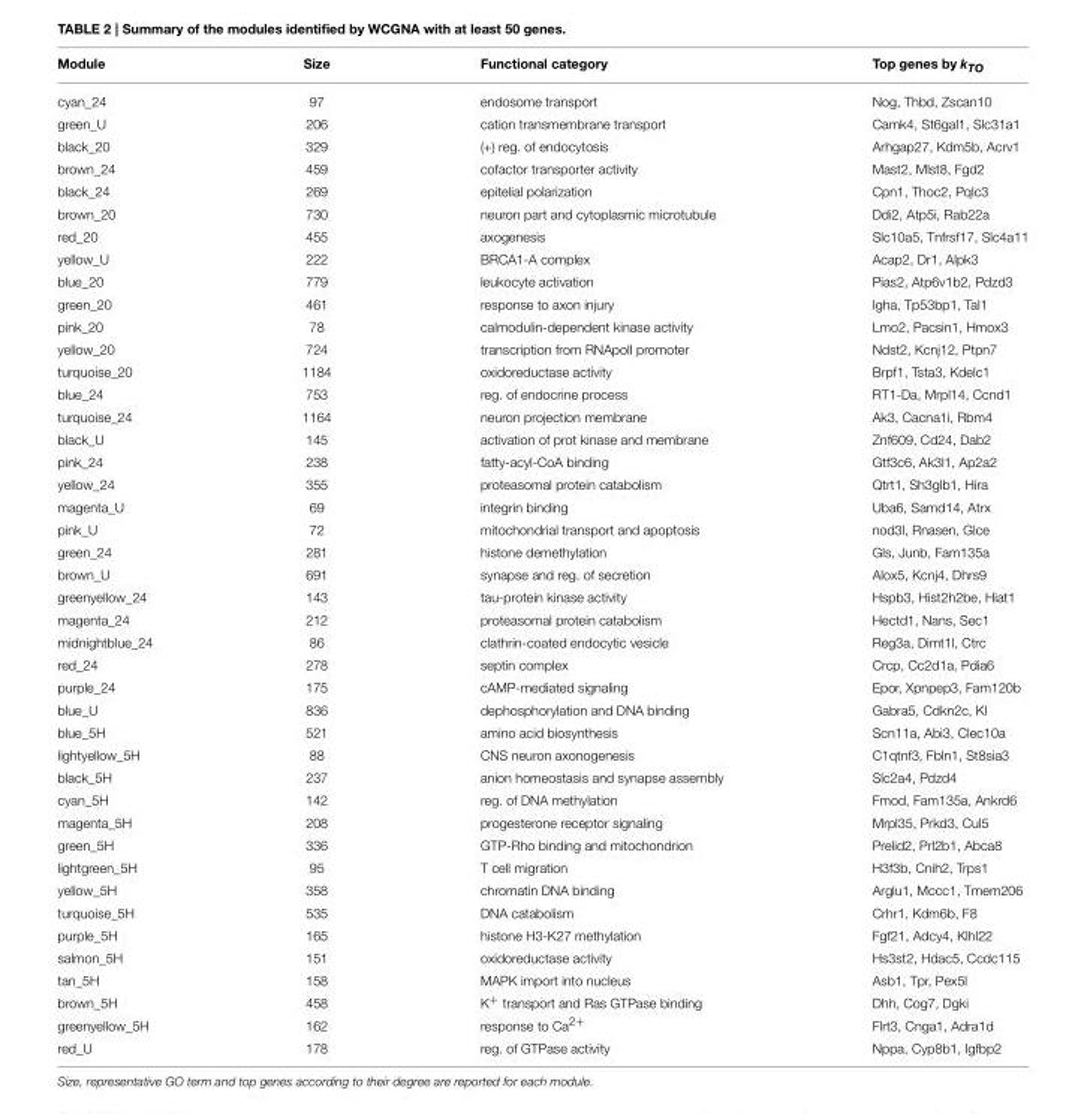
<table><thead><tr><td>Module</td><td>Size</td><td>Functional category</td><td>Top genes by k<sub>TO</sub></td></tr></thead><tbody><tr><td>cyan_24</td><td>97</td><td>endosome transport</td><td>Nog, Thbd, Zscan10</td></tr><tr><td>green_U</td><td>206</td><td>cation transmembrane transport</td><td>Camk4, St6gal1, Slc31a1</td></tr><tr><td>black_20</td><td>329</td><td>(+) reg. of endocytosis</td><td>Arhgap27, Kdm5b, Acrv1</td></tr><tr><td>brown_24</td><td>459</td><td>cofactor transporter activity</td><td>Mast2, Mlst8, Fgd2</td></tr><tr><td>black_24</td><td>269</td><td>epitelial polarization</td><td>Cpn1, Thoc2, Pqlc3</td></tr><tr><td>brown_20</td><td>730</td><td>neuron part and cytoplasmic microtubule</td><td>Ddi2, Atp5i, Rab22a</td></tr><tr><td>red_20</td><td>455</td><td>axogenesis</td><td>Slc10a5, Tnfrsf17, Slc4a11</td></tr><tr><td>yellow_U</td><td>222</td><td>BRCA1-A complex</td><td>Acap2, Dr1, Alpk3</td></tr><tr><td>blue_20</td><td>779</td><td>leukocyte activation</td><td>Pias2, Atp6v1b2, Pdzd3</td></tr><tr><td>green_20</td><td>461</td><td>response to axon injury</td><td>Igha, Tp53bp1, Tal1</td></tr><tr><td>pink_20</td><td>78</td><td>calmodulin-dependent kinase activity</td><td>Lmo2, Pacsin1, Hmox3</td></tr><tr><td>yellow_20</td><td>724</td><td>transcription from RNApolI promoter</td><td>Ndst2, Kcnj12, Ptpn7</td></tr><tr><td>turquoise_20</td><td>1184</td><td>oxidoreductase activity</td><td>Brpf1, Tsta3, Kdelc1</td></tr><tr><td>blue_24</td><td>753</td><td>reg. of endocrine process</td><td>RT1-Da, Mrpl14, Ccnd1</td></tr><tr><td>turquoise_24</td><td>1164</td><td>neuron projection membrane</td><td>Ak3, Cacna1i, Rbm4</td></tr><tr><td>black_U</td><td>145</td><td>activation of prot kinase and membrane</td><td>Znf609, Cd24, Dab2</td></tr><tr><td>pink_24</td><td>238</td><td>fatty-acyl-CoA binding</td><td>Gtf3c6, Ak3l1, Ap2a2</td></tr><tr><td>yellow_24</td><td>355</td><td>proteasomal protein catabolism</td><td>Qtrt1, Sh3glb1, Hira</td></tr><tr><td>magenta_U</td><td>69</td><td>integrin binding</td><td>Uba6, Samd14, Atrx</td></tr><tr><td>pink_U</td><td>72</td><td>mitochondrial transport and apoptosis</td><td>nod3l, Rnasen, Glce</td></tr><tr><td>green_24</td><td>281</td><td>histone demethylation</td><td>Gls, Junb, Fam135a</td></tr><tr><td>brown_U</td><td>691</td><td>synapse and reg. of secretion</td><td>Alox5, Kcnj4, Dhrs9</td></tr><tr><td>greenyellow_24</td><td>143</td><td>tau-protein kinase activity</td><td>Hspb3, Hist2h2be, Hiat1</td></tr><tr><td>magenta_24</td><td>212</td><td>proteasomal protein catabolism</td><td>Hectd1, Nans, Sec1</td></tr><tr><td>midnightblue_24</td><td>86</td><td>clathrin-coated endocytic vesicle</td><td>Reg3a, Dimt1l, Ctrc</td></tr><tr><td>red_24</td><td>278</td><td>septin complex</td><td>Crcp, Cc2d1a, Pdia6</td></tr><tr><td>purple_24</td><td>175</td><td>cAMP-mediated signaling</td><td>Epor, Xpnpep3, Fam120b</td></tr><tr><td>blue_U</td><td>836</td><td>dephosphorylation and DNA binding</td><td>Gabra5, Cdkn2c, Kl</td></tr><tr><td>blue_5H</td><td>521</td><td>amino acid biosynthesis</td><td>Scn11a, Abi3, Clec10a</td></tr><tr><td>lightyellow_5H</td><td>88</td><td>CNS neuron axonogenesis</td><td>C1qtnf3, Fbln1, St8sia3</td></tr><tr><td>black_5H</td><td>237</td><td>anion homeostasis and synapse assembly</td><td>Slc2a4, Pdzd4</td></tr><tr><td>cyan_5H</td><td>142</td><td>reg. of DNA methylation</td><td>Fmod, Fam135a, Ankrd6</td></tr><tr><td>magenta_5H</td><td>208</td><td>progesterone receptor signaling</td><td>Mrpl35, Prkd3, Cul5</td></tr><tr><td>green_5H</td><td>336</td><td>GTP-Rho binding and mitochondrion</td><td>Prelid2, Prl2b1, Abca8</td></tr><tr><td>lightgreen_5H</td><td>95</td><td>T cell migration</td><td>H3f3b, Cnih2, Trps1</td></tr><tr><td>yellow_5H</td><td>358</td><td>chromatin DNA binding</td><td>Arglu1, Mccc1, Tmem206</td></tr><tr><td>turquoise_5H</td><td>535</td><td>DNA catabolism</td><td>Crhr1, Kdm6b, F8</td></tr><tr><td>purple_5H</td><td>165</td><td>histone H3-K27 methylation</td><td>Fgf21, Adcy4, Klhl22</td></tr><tr><td>salmon_5H</td><td>151</td><td>oxidoreductase activity</td><td>Hs3st2, Hdac5, Ccdc115</td></tr><tr><td>tan_5H</td><td>158</td><td>MAPK import into nucleus</td><td>Asb1, Tpr, Pex5l</td></tr><tr><td>brown_5H</td><td>458</td><td>K<sup>+</sup> transport and Ras GTPase binding</td><td>Dhh, Cog7, Dgki</td></tr><tr><td>greenyellow_5H</td><td>162</td><td>response to Ca<sup>2+</sup></td><td>Flrt3, Cnga1, Adra1d</td></tr><tr><td>red_U</td><td>178</td><td>reg. of GTPase activity</td><td>Nppa, Cyp8b1, Igfbp2</td></tr></tbody></table>